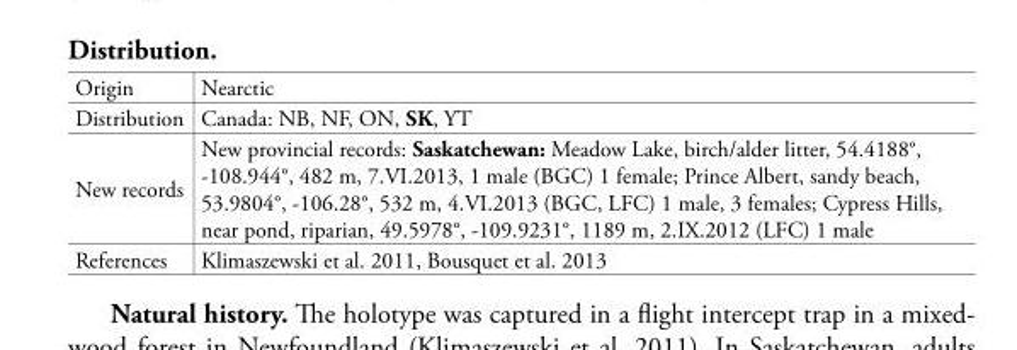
<table><tbody><tr><td>Origin</td><td>Nearctic</td></tr><tr><td>Distribution</td><td>Canada: NB, NF, ON, SK, YT</td></tr><tr><td>New records</td><td>New provincial records: Saskatchewan: Meadow Lake, birch/alder litter, 54.4188°, -108.944°, 482 m, 7.VI.2013, 1 male (BGC) 1 female; Prince Albert, sandy beach, 53.9804°, -106.28°, 532 m, 4.VI.2013 (BGC, LFC) 1 male, 3 females; Cypress Hills, near pond, riparian, 49.5978°, -109.9231°, 1189 m, 2.IX.2012 (LFC) 1 male</td></tr><tr><td>References</td><td>Klimaszewski et al. 2011, Bousquet et al. 2013</td></tr></tbody></table>